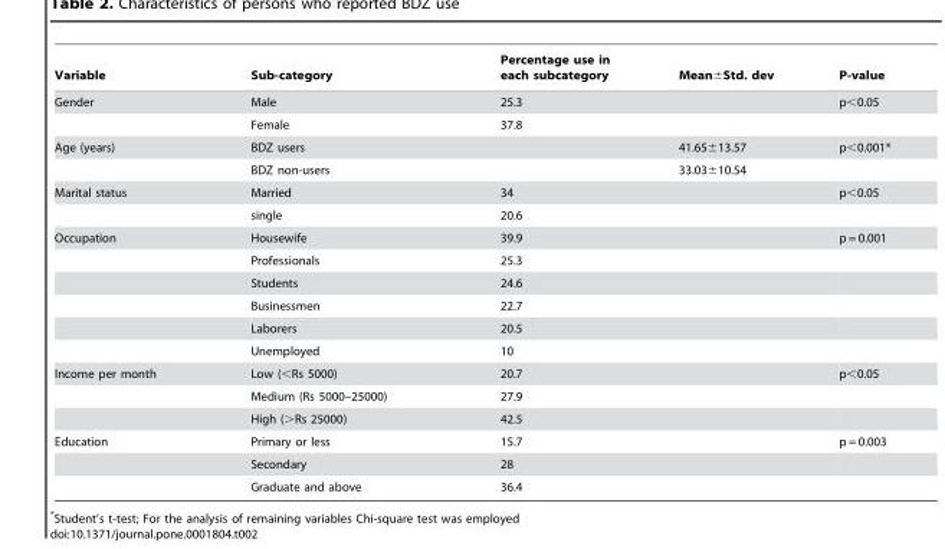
<table><thead><tr><td>Variable</td><td>Sub-category</td><td>Percentage use in each subcategory</td><td>Mean±Std. dev</td><td>P-value</td></tr></thead><tbody><tr><td rowspan="2">Gender</td><td>Male</td><td>25.3</td><td></td><td>p&lt;0.05</td></tr><tr><td>Female</td><td>37.8</td><td></td><td></td></tr><tr><td rowspan="2">Age (years)</td><td>BDZ users</td><td></td><td>41.65±13.57</td><td>p&lt;0.001*</td></tr><tr><td>BDZ non-users</td><td></td><td>33.03±10.54</td><td></td></tr><tr><td rowspan="2">Marital status</td><td>Married</td><td>34</td><td></td><td>p&lt;0.05</td></tr><tr><td>single</td><td>20.6</td><td></td><td></td></tr><tr><td rowspan="6">Occupation</td><td>Housewife</td><td>39.9</td><td></td><td>p = 0.001</td></tr><tr><td>Professionals</td><td>25.3</td><td></td><td></td></tr><tr><td>Students</td><td>24.6</td><td></td><td></td></tr><tr><td>Businessmen</td><td>22.7</td><td></td><td></td></tr><tr><td>Laborers</td><td>20.5</td><td></td><td></td></tr><tr><td>Unemployed</td><td>10</td><td></td><td></td></tr><tr><td rowspan="3">Income per month</td><td>Low (&lt;Rs 5000)</td><td>20.7</td><td></td><td>p&lt;0.05</td></tr><tr><td>Medium (Rs 5000–25000)</td><td>27.9</td><td></td><td></td></tr><tr><td>High (&gt;Rs 25000)</td><td>42.5</td><td></td><td></td></tr><tr><td rowspan="3">Education</td><td>Primary or less</td><td>15.7</td><td></td><td>p = 0.003</td></tr><tr><td>Secondary</td><td>28</td><td></td><td></td></tr><tr><td>Graduate and above</td><td>36.4</td><td></td><td></td></tr></tbody></table>